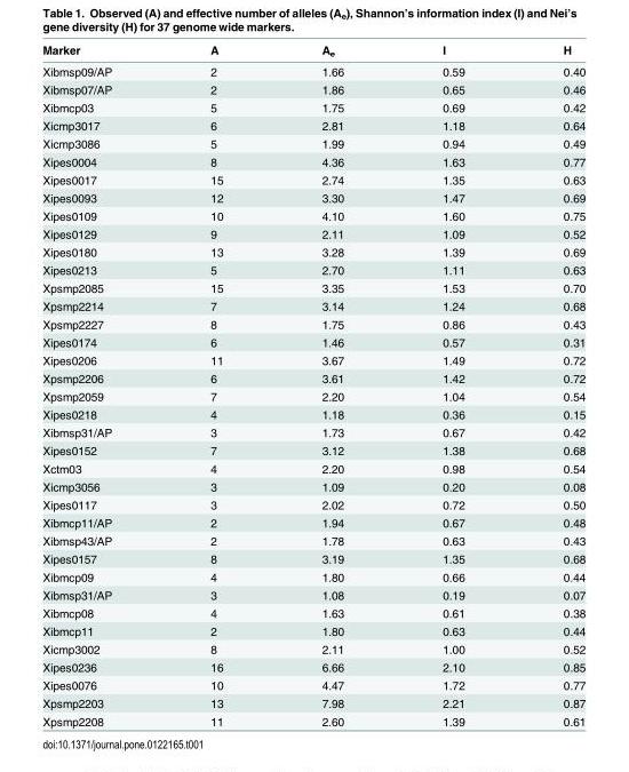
<table><thead><tr><td>Marker</td><td>A</td><td>A<sub>e</sub></td><td>I</td><td>H</td></tr></thead><tbody><tr><td>Xibmsp09/AP</td><td>2</td><td>1.66</td><td>0.59</td><td>0.40</td></tr><tr><td>Xibmsp07/AP</td><td>2</td><td>1.86</td><td>0.65</td><td>0.46</td></tr><tr><td>Xibmcp03</td><td>5</td><td>1.75</td><td>0.69</td><td>0.42</td></tr><tr><td>Xicmp3017</td><td>6</td><td>2.81</td><td>1.18</td><td>0.64</td></tr><tr><td>Xicmp3086</td><td>5</td><td>1.99</td><td>0.94</td><td>0.49</td></tr><tr><td>Xipes0004</td><td>8</td><td>4.36</td><td>1.63</td><td>0.77</td></tr><tr><td>Xipes0017</td><td>15</td><td>2.74</td><td>1.35</td><td>0.63</td></tr><tr><td>Xipes0093</td><td>12</td><td>3.30</td><td>1.47</td><td>0.69</td></tr><tr><td>Xipes0109</td><td>10</td><td>4.10</td><td>1.60</td><td>0.75</td></tr><tr><td>Xipes0129</td><td>9</td><td>2.11</td><td>1.09</td><td>0.52</td></tr><tr><td>Xipes0180</td><td>13</td><td>3.28</td><td>1.39</td><td>0.69</td></tr><tr><td>Xipes0213</td><td>5</td><td>2.70</td><td>1.11</td><td>0.63</td></tr><tr><td>Xpsmp2085</td><td>15</td><td>3.35</td><td>1.53</td><td>0.70</td></tr><tr><td>Xpsmp2214</td><td>7</td><td>3.14</td><td>1.24</td><td>0.68</td></tr><tr><td>Xpsmp2227</td><td>8</td><td>1.75</td><td>0.86</td><td>0.43</td></tr><tr><td>Xipes0174</td><td>6</td><td>1.46</td><td>0.57</td><td>0.31</td></tr><tr><td>Xipes0206</td><td>11</td><td>3.67</td><td>1.49</td><td>0.72</td></tr><tr><td>Xpsmp2206</td><td>6</td><td>3.61</td><td>1.42</td><td>0.72</td></tr><tr><td>Xpsmp2059</td><td>7</td><td>2.20</td><td>1.04</td><td>0.54</td></tr><tr><td>Xipes0218</td><td>4</td><td>1.18</td><td>0.36</td><td>0.15</td></tr><tr><td>Xibmsp31/AP</td><td>3</td><td>1.73</td><td>0.67</td><td>0.42</td></tr><tr><td>Xipes0152</td><td>7</td><td>3.12</td><td>1.38</td><td>0.68</td></tr><tr><td>Xctm03</td><td>4</td><td>2.20</td><td>0.98</td><td>0.54</td></tr><tr><td>Xicmp3056</td><td>3</td><td>1.09</td><td>0.20</td><td>0.08</td></tr><tr><td>Xipes0117</td><td>3</td><td>2.02</td><td>0.72</td><td>0.50</td></tr><tr><td>Xibmcp11/AP</td><td>2</td><td>1.94</td><td>0.67</td><td>0.48</td></tr><tr><td>Xibmsp43/AP</td><td>2</td><td>1.78</td><td>0.63</td><td>0.43</td></tr><tr><td>Xipes0157</td><td>8</td><td>3.19</td><td>1.35</td><td>0.68</td></tr><tr><td>Xibmcp09</td><td>4</td><td>1.80</td><td>0.66</td><td>0.44</td></tr><tr><td>Xibmsp31/AP</td><td>3</td><td>1.08</td><td>0.19</td><td>0.07</td></tr><tr><td>Xibmcp08</td><td>4</td><td>1.63</td><td>0.61</td><td>0.38</td></tr><tr><td>Xibmcp11</td><td>2</td><td>1.80</td><td>0.63</td><td>0.44</td></tr><tr><td>Xicmp3002</td><td>8</td><td>2.11</td><td>1.00</td><td>0.52</td></tr><tr><td>Xipes0236</td><td>16</td><td>6.66</td><td>2.10</td><td>0.85</td></tr><tr><td>Xipes0076</td><td>10</td><td>4.47</td><td>1.72</td><td>0.77</td></tr><tr><td>Xpsmp2203</td><td>13</td><td>7.98</td><td>2.21</td><td>0.87</td></tr><tr><td>Xpsmp2208</td><td>11</td><td>2.60</td><td>1.39</td><td>0.61</td></tr></tbody></table>